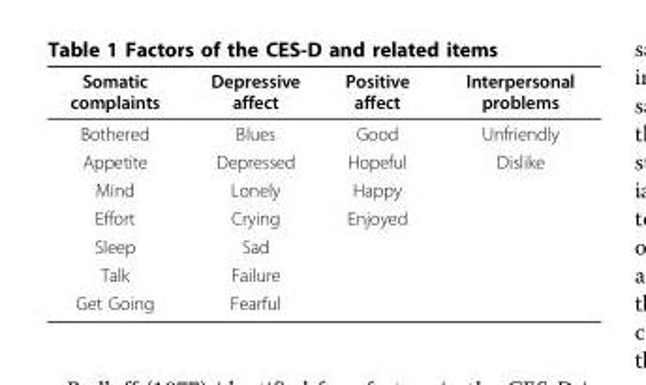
<table><thead><tr><td>Somatic complaints</td><td>Depressive affect</td><td>Positive affect</td><td>Interpersonal problems</td></tr></thead><tbody><tr><td>Bothered</td><td>Blues</td><td>Good</td><td>Unfriendly</td></tr><tr><td>Appetite</td><td>Depressed</td><td>Hopeful</td><td>Dislike</td></tr><tr><td>Mind</td><td>Lonely</td><td>Happy</td><td></td></tr><tr><td>Effort</td><td>Crying</td><td>Enjoyed</td><td></td></tr><tr><td>Sleep</td><td>Sad</td><td></td><td></td></tr><tr><td>Talk</td><td>Failure</td><td></td><td></td></tr><tr><td>Get Going</td><td>Fearful</td><td></td><td></td></tr></tbody></table>